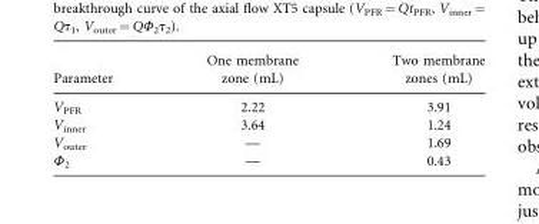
<table><thead><tr><td>Parameter</td><td>One membrane zone (mL)</td><td>Two membrane zones (mL)</td></tr></thead><tbody><tr><td>V<sub>PFR</sub></td><td>2.22</td><td>3.91</td></tr><tr><td>V<sub>inner</sub></td><td>3.64</td><td>1.24</td></tr><tr><td>V<sub>outer</sub></td><td>—</td><td>1.69</td></tr><tr><td>Φ<sub>2</sub></td><td>—</td><td>0.43</td></tr></tbody></table>